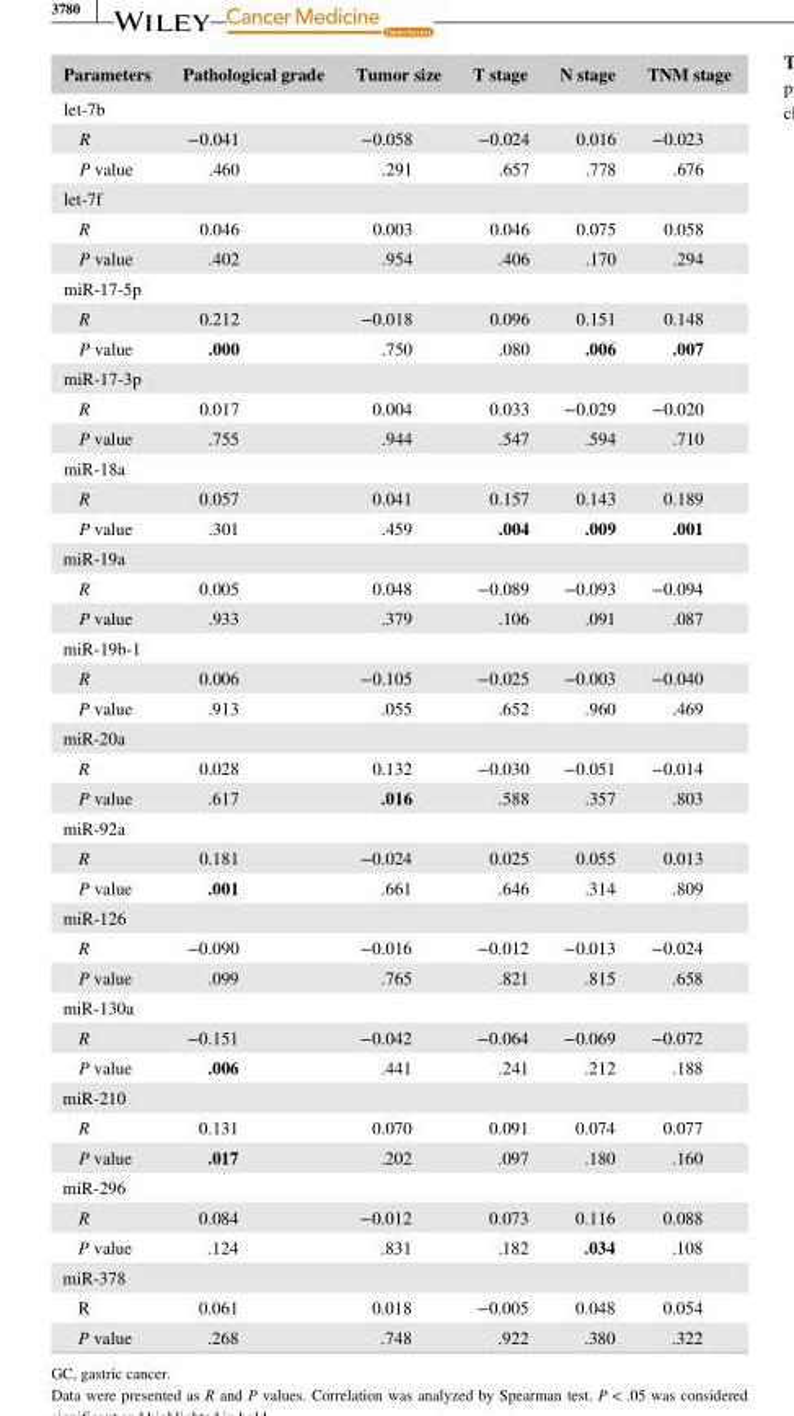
<table><thead><tr><td>Parameters</td><td>Pathological grade</td><td>Tumor size</td><td>T stage</td><td>N stage</td><td>TNM stage</td></tr></thead><tbody><tr><td colspan="6">let- 7b</td></tr><tr><td>R</td><td>−0.041</td><td>−0.058</td><td>−0.024</td><td>0.016</td><td>−0.023</td></tr><tr><td>P value</td><td>.460</td><td>.291</td><td>.657</td><td>.778</td><td>.676</td></tr><tr><td colspan="6">let- 7f</td></tr><tr><td>R</td><td>0.046</td><td>0.003</td><td>0.046</td><td>0.075</td><td>0.058</td></tr><tr><td>P value</td><td>.402</td><td>.954</td><td>.406</td><td>.170</td><td>.294</td></tr><tr><td colspan="6">miR- 17- 5p</td></tr><tr><td>R</td><td>0.212</td><td>−0.018</td><td>0.096</td><td>0.151</td><td>0.148</td></tr><tr><td>P value</td><td>.000</td><td>.750</td><td>.080</td><td>.006</td><td>.007</td></tr><tr><td colspan="6">miR- 17- 3p</td></tr><tr><td>R</td><td>0.017</td><td>0.004</td><td>0.033</td><td>−0.029</td><td>−0.020</td></tr><tr><td>P value</td><td>.755</td><td>.944</td><td>.547</td><td>.594</td><td>.710</td></tr><tr><td colspan="6">miR- 18a</td></tr><tr><td>R</td><td>0.057</td><td>0.041</td><td>0.157</td><td>0.143</td><td>0.189</td></tr><tr><td>P value</td><td>.301</td><td>.459</td><td>.004</td><td>.009</td><td>.001</td></tr><tr><td colspan="6">miR- 19a</td></tr><tr><td>R</td><td>0.005</td><td>0.048</td><td>−0.089</td><td>−0.093</td><td>−0.094</td></tr><tr><td>P value</td><td>.933</td><td>.379</td><td>.106</td><td>.091</td><td>.087</td></tr><tr><td colspan="6">miR- 19b- 1</td></tr><tr><td>R</td><td>0.006</td><td>−0.105</td><td>−0.025</td><td>−0.003</td><td>−0.040</td></tr><tr><td>P value</td><td>.913</td><td>.055</td><td>.652</td><td>.960</td><td>.469</td></tr><tr><td colspan="6">miR- 20a</td></tr><tr><td>R</td><td>0.028</td><td>0.132</td><td>−0.030</td><td>−0.051</td><td>−0.014</td></tr><tr><td>P value</td><td>.617</td><td>.016</td><td>.588</td><td>.357</td><td>.803</td></tr><tr><td colspan="6">miR- 92a</td></tr><tr><td>R</td><td>0.181</td><td>−0.024</td><td>0.025</td><td>0.055</td><td>0.013</td></tr><tr><td>P value</td><td>.001</td><td>.661</td><td>.646</td><td>.314</td><td>.809</td></tr><tr><td colspan="6">miR- 126</td></tr><tr><td>R</td><td>−0.090</td><td>−0.016</td><td>−0.012</td><td>−0.013</td><td>−0.024</td></tr><tr><td>P value</td><td>.099</td><td>.765</td><td>.821</td><td>.815</td><td>.658</td></tr><tr><td colspan="6">miR- 130a</td></tr><tr><td>R</td><td>−0.151</td><td>−0.042</td><td>−0.064</td><td>−0.069</td><td>−0.072</td></tr><tr><td>P value</td><td>.006</td><td>.441</td><td>.241</td><td>.212</td><td>.188</td></tr><tr><td colspan="6">miR- 210</td></tr><tr><td>R</td><td>0.131</td><td>0.070</td><td>0.091</td><td>0.074</td><td>0.077</td></tr><tr><td>P value</td><td>.017</td><td>.202</td><td>.097</td><td>.180</td><td>.160</td></tr><tr><td colspan="6">miR- 296</td></tr><tr><td>R</td><td>0.084</td><td>−0.012</td><td>0.073</td><td>0.116</td><td>0.088</td></tr><tr><td>P value</td><td>.124</td><td>.831</td><td>.182</td><td>.034</td><td>.108</td></tr><tr><td colspan="6">miR- 378</td></tr><tr><td>R</td><td>0.061</td><td>0.018</td><td>−0.005</td><td>0.048</td><td>0.054</td></tr><tr><td>P value</td><td>.268</td><td>.748</td><td>.922</td><td>.380</td><td>.322</td></tr></tbody></table>